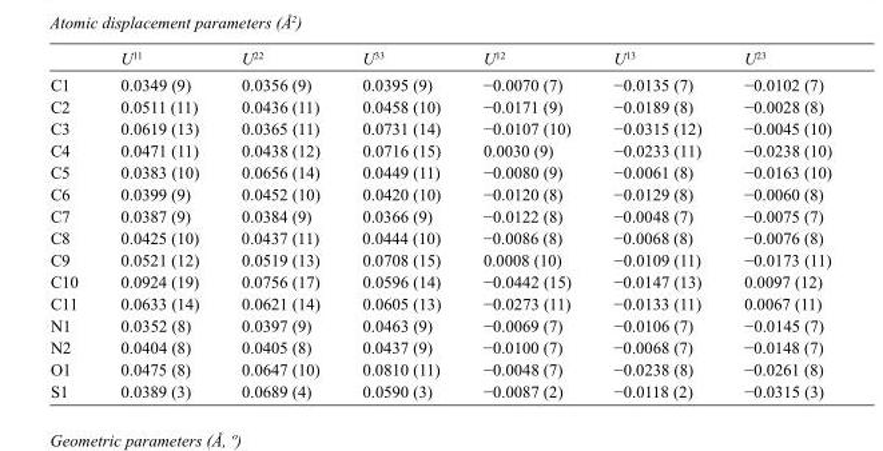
<table><thead><tr><td></td><td>U<sup>11</sup></td><td>U<sup>22</sup></td><td>U<sup>33</sup></td><td>U<sup>12</sup></td><td>U<sup>13</sup></td><td>U<sup>23</sup></td></tr></thead><tbody><tr><td>C1</td><td>0.0349 (9)</td><td>0.0356 (9)</td><td>0.0395 (9)</td><td>−0.0070 (7)</td><td>−0.0135 (7)</td><td>−0.0102 (7)</td></tr><tr><td>C2</td><td>0.0511 (11)</td><td>0.0436 (11)</td><td>0.0458 (10)</td><td>−0.0171 (9)</td><td>−0.0189 (8)</td><td>−0.0028 (8)</td></tr><tr><td>C3</td><td>0.0619 (13)</td><td>0.0365 (11)</td><td>0.0731 (14)</td><td>−0.0107 (10)</td><td>−0.0315 (12)</td><td>−0.0045 (10)</td></tr><tr><td>C4</td><td>0.0471 (11)</td><td>0.0438 (12)</td><td>0.0716 (15)</td><td>0.0030 (9)</td><td>−0.0233 (11)</td><td>−0.0238 (10)</td></tr><tr><td>C5</td><td>0.0383 (10)</td><td>0.0656 (14)</td><td>0.0449 (11)</td><td>−0.0080 (9)</td><td>−0.0061 (8)</td><td>−0.0163 (10)</td></tr><tr><td>C6</td><td>0.0399 (9)</td><td>0.0452 (10)</td><td>0.0420 (10)</td><td>−0.0120 (8)</td><td>−0.0129 (8)</td><td>−0.0060 (8)</td></tr><tr><td>C7</td><td>0.0387 (9)</td><td>0.0384 (9)</td><td>0.0366 (9)</td><td>−0.0122 (8)</td><td>−0.0048 (7)</td><td>−0.0075 (7)</td></tr><tr><td>C8</td><td>0.0425 (10)</td><td>0.0437 (11)</td><td>0.0444 (10)</td><td>−0.0086 (8)</td><td>−0.0068 (8)</td><td>−0.0076 (8)</td></tr><tr><td>C9</td><td>0.0521 (12)</td><td>0.0519 (13)</td><td>0.0708 (15)</td><td>0.0008 (10)</td><td>−0.0109 (11)</td><td>−0.0173 (11)</td></tr><tr><td>C10</td><td>0.0924 (19)</td><td>0.0756 (17)</td><td>0.0596 (14)</td><td>−0.0442 (15)</td><td>−0.0147 (13)</td><td>0.0097 (12)</td></tr><tr><td>C11</td><td>0.0633 (14)</td><td>0.0621 (14)</td><td>0.0605 (13)</td><td>−0.0273 (11)</td><td>−0.0133 (11)</td><td>0.0067 (11)</td></tr><tr><td>N1</td><td>0.0352 (8)</td><td>0.0397 (9)</td><td>0.0463 (9)</td><td>−0.0069 (7)</td><td>−0.0106 (7)</td><td>−0.0145 (7)</td></tr><tr><td>N2</td><td>0.0404 (8)</td><td>0.0405 (8)</td><td>0.0437 (9)</td><td>−0.0100 (7)</td><td>−0.0068 (7)</td><td>−0.0148 (7)</td></tr><tr><td>O1</td><td>0.0475 (8)</td><td>0.0647 (10)</td><td>0.0810 (11)</td><td>−0.0048 (7)</td><td>−0.0238 (8)</td><td>−0.0261 (8)</td></tr><tr><td>S1</td><td>0.0389 (3)</td><td>0.0689 (4)</td><td>0.0590 (3)</td><td>−0.0087 (2)</td><td>−0.0118 (2)</td><td>−0.0315 (3)</td></tr></tbody></table>